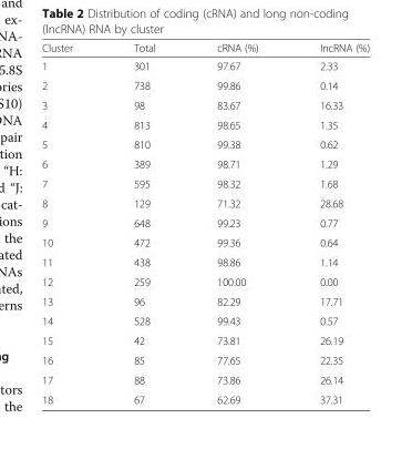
<table><thead><tr><td>Cluster</td><td>Total</td><td>cRNA (%)</td><td>IncRNA (%)</td></tr></thead><tbody><tr><td>1</td><td>301</td><td>97.67</td><td>2.33</td></tr><tr><td>2</td><td>738</td><td>99.86</td><td>0.14</td></tr><tr><td>3</td><td>98</td><td>83.67</td><td>16.33</td></tr><tr><td>4</td><td>813</td><td>98.65</td><td>1.35</td></tr><tr><td>5</td><td>810</td><td>99.38</td><td>0.62</td></tr><tr><td>6</td><td>389</td><td>98.71</td><td>1.29</td></tr><tr><td>7</td><td>595</td><td>98.32</td><td>1.68</td></tr><tr><td>8</td><td>129</td><td>71.32</td><td>28.68</td></tr><tr><td>9</td><td>648</td><td>99.23</td><td>0.77</td></tr><tr><td>10</td><td>472</td><td>99.36</td><td>0.64</td></tr><tr><td>11</td><td>438</td><td>98.86</td><td>1.14</td></tr><tr><td>12</td><td>259</td><td>100.00</td><td>0.00</td></tr><tr><td>13</td><td>96</td><td>82.29</td><td>17.71</td></tr><tr><td>14</td><td>528</td><td>99.43</td><td>0.57</td></tr><tr><td>15</td><td>42</td><td>73.81</td><td>26.19</td></tr><tr><td>16</td><td>85</td><td>77.65</td><td>22.35</td></tr><tr><td>17</td><td>88</td><td>73.86</td><td>26.14</td></tr><tr><td>18</td><td>67</td><td>62.69</td><td>37.31</td></tr></tbody></table>